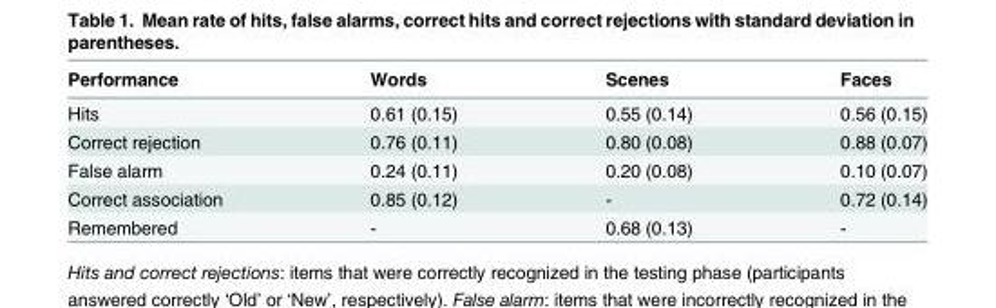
<table><thead><tr><td>Performance</td><td>Words</td><td>Scenes</td><td>Faces</td></tr></thead><tbody><tr><td>Hits</td><td>0.61 (0.15)</td><td>0.55 (0.14)</td><td>0.56 (0.15)</td></tr><tr><td>Correct rejection</td><td>0.76 (0.11)</td><td>0.80 (0.08)</td><td>0.88 (0.07)</td></tr><tr><td>False alarm</td><td>0.24 (0.11)</td><td>0.20 (0.08)</td><td>0.10 (0.07)</td></tr><tr><td>Correct association</td><td>0.85 (0.12)</td><td>-</td><td>0.72 (0.14)</td></tr><tr><td>Remembered</td><td>-</td><td>0.68 (0.13)</td><td>-</td></tr></tbody></table>